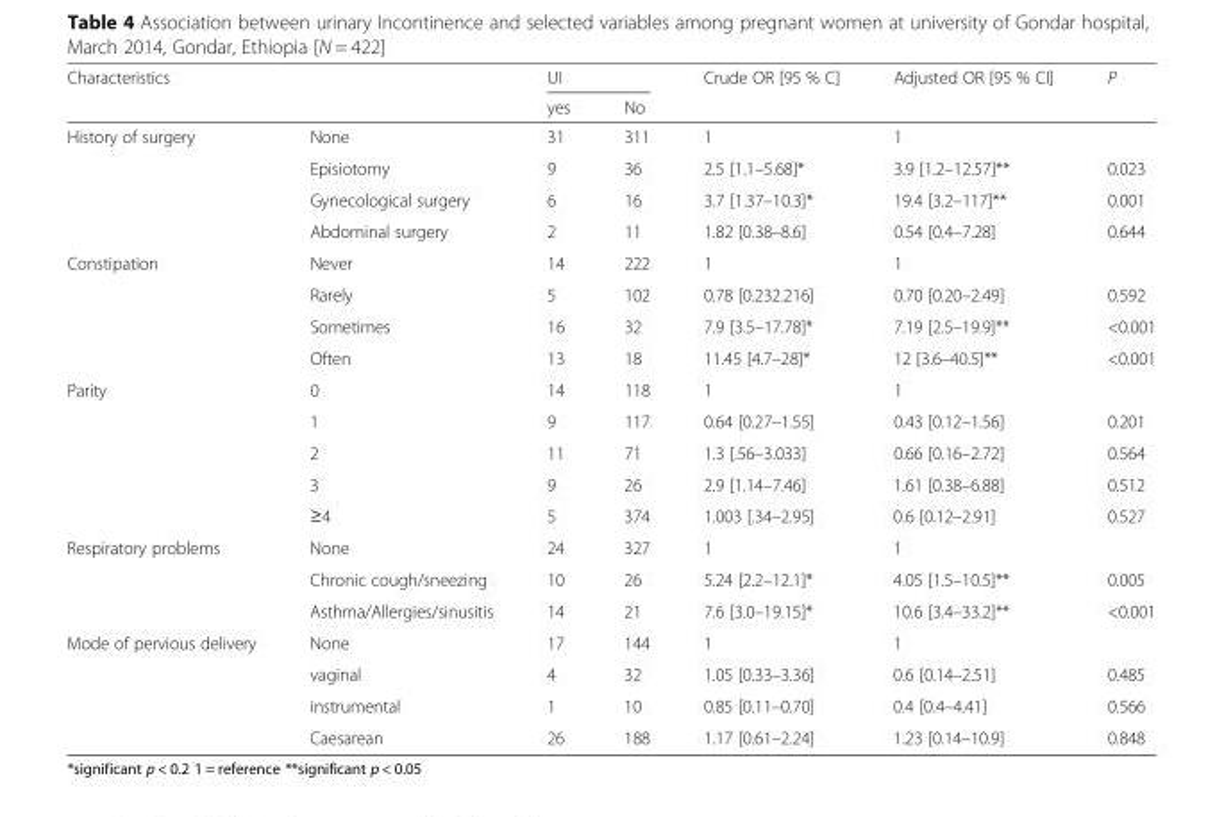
<table><thead><tr><td rowspan="2" colspan="2">Characteristics</td><td colspan="2">UI</td><td rowspan="3">Crude OR [95 % C] 1</td><td rowspan="3">Adjusted OR [95 % CI] 1</td><td rowspan="3">P</td></tr><tr><td rowspan="2">yes 31</td><td rowspan="2">No 311</td></tr><tr><td>History of surgery</td><td>None</td></tr></thead><tbody><tr><td rowspan="3"></td><td>Episiotomy</td><td>9</td><td>36</td><td>2.5 [1.1–5.68]*</td><td>3.9 [1.2–12.57]**</td><td>0.023</td></tr><tr><td>Gynecological surgery</td><td>6</td><td>16</td><td>3.7 [1.37–10.3]*</td><td>19.4 [3.2–117]**</td><td>0.001</td></tr><tr><td>Abdominal surgery</td><td>2</td><td>11</td><td>1.82 [0.38–8.6]</td><td>0.54 [0.4–7.28]</td><td>0.644</td></tr><tr><td rowspan="4">Constipation</td><td>Never</td><td>14</td><td>222</td><td>1</td><td>1</td><td></td></tr><tr><td>Rarely</td><td>5</td><td>102</td><td>0.78 [0.232.216]</td><td>0.70 [0.20–2.49]</td><td>0.592</td></tr><tr><td>Sometimes</td><td>16</td><td>32</td><td>7.9 [3.5–17.78]*</td><td>7.19 [2.5–19.9]**</td><td>&lt;0.001</td></tr><tr><td>Often</td><td>13</td><td>18</td><td>11.45 [4.7–28]*</td><td>12 [3.6–40.5]**</td><td>&lt;0.001</td></tr><tr><td rowspan="5">Parity</td><td>0</td><td>14</td><td>118</td><td>1</td><td>1</td><td></td></tr><tr><td>1</td><td>9</td><td>117</td><td>0.64 [0.27–1.55]</td><td>0.43 [0.12–1.56]</td><td>0.201</td></tr><tr><td>2</td><td>11</td><td>71</td><td>1.3 [.56–3.033]</td><td>0.66 [0.16–2.72]</td><td>0.564</td></tr><tr><td>3</td><td>9</td><td>26</td><td>2.9 [1.14–7.46]</td><td>1.61 [0.38–6.88]</td><td>0.512</td></tr><tr><td>≥4</td><td>5</td><td>374</td><td>1.003 [.34–2.95]</td><td>0.6 [0.12–2.91]</td><td>0.527</td></tr><tr><td rowspan="3">Respiratory problems</td><td>None</td><td>24</td><td>327</td><td>1</td><td>1</td><td></td></tr><tr><td>Chronic cough/sneezing</td><td>10</td><td>26</td><td>5.24 [2.2–12.1]*</td><td>4.05 [1.5–10.5]**</td><td>0.005</td></tr><tr><td>Asthma/Allergies/sinusitis</td><td>14</td><td>21</td><td>7.6 [3.0–19.15]*</td><td>10.6 [3.4–33.2]**</td><td>&lt;0.001</td></tr><tr><td rowspan="4">Mode of pervious delivery</td><td>None</td><td>17</td><td>144</td><td>1</td><td>1</td><td></td></tr><tr><td>vaginal</td><td>4</td><td>32</td><td>1.05 [0.33–3.36]</td><td>0.6 [0.14–2.51]</td><td>0.485</td></tr><tr><td>instrumental</td><td>1</td><td>10</td><td>0.85 [0.11–0.70]</td><td>0.4 [0.4–4.41]</td><td>0.566</td></tr><tr><td>Caesarean</td><td>26</td><td>188</td><td>1.17 [0.61–2.24]</td><td>1.23 [0.14–10.9]</td><td>0.848</td></tr></tbody></table>